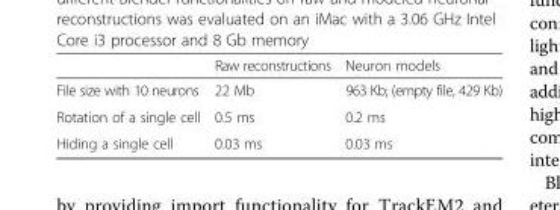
<table><thead><tr><td></td><td>Raw reconstructions</td><td>Neuron models</td></tr></thead><tbody><tr><td>File size with 10 neurons</td><td>22 Mb</td><td>963 Kb; (empty file, 429 Kb)</td></tr><tr><td>Rotation of a single cell</td><td>0.5 ms</td><td>0.2 ms</td></tr><tr><td>Hiding a single cell</td><td>0.03 ms</td><td>0.03 ms</td></tr></tbody></table>